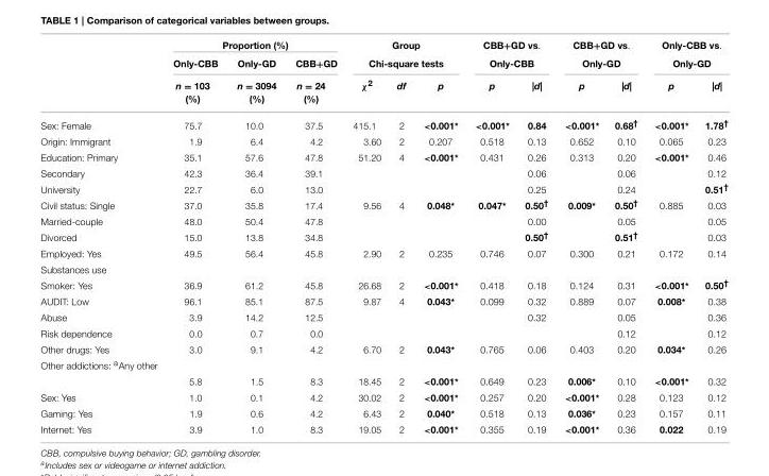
<table><thead><tr><td rowspan="3"></td><td colspan="3">Proportion (%)</td><td rowspan="2" colspan="3">Group Chi-square tests</td><td rowspan="2" colspan="2">CBB+GD vs. Only-CBB</td><td rowspan="2" colspan="2">CBB+GD vs. Only-GD</td><td rowspan="2" colspan="2">Only-CBB vs. Only-GD</td></tr><tr><td rowspan="2">Only-CBB n = 103 (%)</td><td rowspan="2">Only-GD n = 3094 (%)</td><td rowspan="2">CBB+GD n = 24 (%)</td></tr><tr><td>χ<sup>2</sup></td><td>df</td><td>p</td><td>p</td><td>|d|</td><td>p</td><td>|d|</td><td>p</td><td>|d|</td></tr></thead><tbody><tr><td>Sex: Female</td><td>75.7</td><td>10.0</td><td>37.5</td><td>415.1</td><td>2</td><td>&lt;0.001*</td><td>&lt;0.001*</td><td>0.84</td><td>&lt;0.001*</td><td>0.68<sup>†</sup></td><td>&lt;0.001*</td><td>1.78<sup>†</sup></td></tr><tr><td>Origin: Immigrant</td><td>1.9</td><td>6.4</td><td>4.2</td><td>3.60</td><td>2</td><td>0.207</td><td>0.518</td><td>0.13</td><td>0.652</td><td>0.10</td><td>0.065</td><td>0.23</td></tr><tr><td>Education: Primary</td><td>35.1</td><td>57.6</td><td>47.8</td><td>51.20</td><td>4</td><td>&lt;0.001*</td><td>0.431</td><td>0.26</td><td>0.313</td><td>0.20</td><td>&lt;0.001*</td><td>0.46</td></tr><tr><td>Secondary</td><td>42.3</td><td>36.4</td><td>39.1</td><td></td><td></td><td></td><td></td><td>0.06</td><td></td><td>0.06</td><td></td><td>0.12</td></tr><tr><td>University</td><td>22.7</td><td>6.0</td><td>13.0</td><td></td><td></td><td></td><td></td><td>0.25</td><td></td><td>0.24</td><td></td><td>0.51<sup>†</sup></td></tr><tr><td>Civil status: Single</td><td>37.0</td><td>35.8</td><td>17.4</td><td>9.56</td><td>4</td><td>0.048*</td><td>0.047*</td><td>0.50<sup>†</sup></td><td>0.009*</td><td>0.50<sup>†</sup></td><td>0.885</td><td>0.03</td></tr><tr><td>Married-couple</td><td>48.0</td><td>50.4</td><td>47.8</td><td></td><td></td><td></td><td></td><td>0.00</td><td></td><td>0.05</td><td></td><td>0.05</td></tr><tr><td>Divorced</td><td>15.0</td><td>13.8</td><td>34.8</td><td></td><td></td><td></td><td></td><td>0.50<sup>†</sup></td><td></td><td>0.51<sup>†</sup></td><td></td><td>0.03</td></tr><tr><td>Employed: Yes</td><td>49.5</td><td>56.4</td><td>45.8</td><td>2.90</td><td>2</td><td>0.235</td><td>0.746</td><td>0.07</td><td>0.300</td><td>0.21</td><td>0.172</td><td>0.14</td></tr><tr><td colspan="13">Substances use</td></tr><tr><td>Smoker: Yes</td><td>36.9</td><td>61.2</td><td>45.8</td><td>26.68</td><td>2</td><td>&lt;0.001*</td><td>0.418</td><td>0.18</td><td>0.124</td><td>0.31</td><td>&lt;0.001*</td><td>0.50<sup>†</sup></td></tr><tr><td>AUDIT: Low</td><td>96.1</td><td>85.1</td><td>87.5</td><td>9.87</td><td>4</td><td>0.043*</td><td>0.099</td><td>0.32</td><td>0.889</td><td>0.07</td><td>0.008*</td><td>0.38</td></tr><tr><td>Abuse</td><td>3.9</td><td>14.2</td><td>12.5</td><td></td><td></td><td></td><td></td><td>0.32</td><td></td><td>0.05</td><td></td><td>0.36</td></tr><tr><td>Risk dependence</td><td>0.0</td><td>0.7</td><td>0.0</td><td></td><td></td><td></td><td></td><td></td><td></td><td>0.12</td><td></td><td>0.12</td></tr><tr><td>Other drugs: Yes</td><td>3.0</td><td>9.1</td><td>4.2</td><td>6.70</td><td>2</td><td>0.043*</td><td>0.765</td><td>0.06</td><td>0.403</td><td>0.20</td><td>0.034*</td><td>0.26</td></tr><tr><td colspan="13">Other addictions: <sup>a</sup>Any other</td></tr><tr><td></td><td>5.8</td><td>1.5</td><td>8.3</td><td>18.45</td><td>2</td><td>&lt;0.001*</td><td>0.649</td><td>0.23</td><td>0.006*</td><td>0.10</td><td>&lt;0.001*</td><td>0.32</td></tr><tr><td>Sex: Yes</td><td>1.0</td><td>0.1</td><td>4.2</td><td>30.02</td><td>2</td><td>&lt;0.001*</td><td>0.257</td><td>0.20</td><td>&lt;0.001*</td><td>0.28</td><td>0.123</td><td>0.12</td></tr><tr><td>Gaming: Yes</td><td>1.9</td><td>0.6</td><td>4.2</td><td>6.43</td><td>2</td><td>0.040*</td><td>0.518</td><td>0.13</td><td>0.036*</td><td>0.23</td><td>0.157</td><td>0.11</td></tr><tr><td>Internet: Yes</td><td>3.9</td><td>1.0</td><td>8.3</td><td>19.05</td><td>2</td><td>&lt;0.001*</td><td>0.355</td><td>0.19</td><td>&lt;0.001*</td><td>0.36</td><td>0.022</td><td>0.19</td></tr></tbody></table>